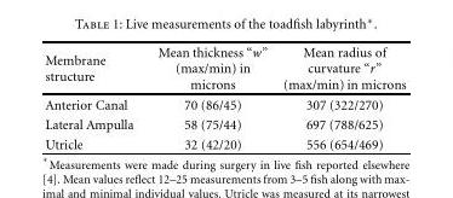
<table><thead><tr><td>Membrane structure</td><td>Mean thickness “w” (max/min) in microns</td><td>Mean radius of curvature “r” (max/min) in microns</td></tr></thead><tbody><tr><td>Anterior Canal</td><td>70 (86/45)</td><td>307 (322/270)</td></tr><tr><td>Lateral Ampulla</td><td>58 (75/44)</td><td>697 (788/625)</td></tr><tr><td>Utricle</td><td>32 (42/20)</td><td>556 (654/469)</td></tr></tbody></table>